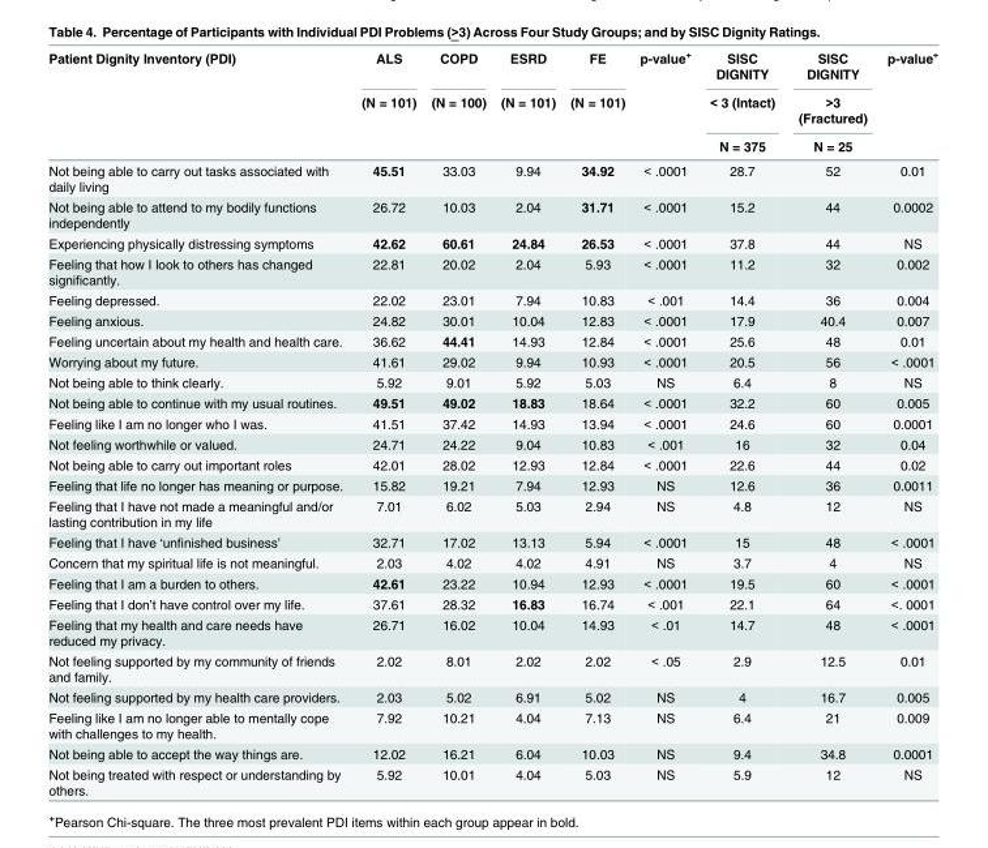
<table><thead><tr><td rowspan="3">Patient Dignity Inventory (PDI)</td><td rowspan="3">ALS (N = 101)</td><td rowspan="3">COPD (N = 100)</td><td rowspan="3">ESRD (N = 101)</td><td rowspan="3">FE (N = 101)</td><td rowspan="3">p-value<sup>+</sup></td><td rowspan="3">SISC DIGNITY &lt; 3 (Intact) N = 375</td><td rowspan="3">SISC DIGNITY &gt;3 (Fractured) N = 25</td><td rowspan="3">p-value<sup>+</sup></td></tr><tr></tr><tr></tr></thead><tbody><tr><td>Not being able to carry out tasks associated with daily living</td><td>45.51</td><td>33.03</td><td>9.94</td><td>34.92</td><td>&lt; .0001</td><td>28.7</td><td>52</td><td>0.01</td></tr><tr><td>Not being able to attend to my bodily functions independently</td><td>26.72</td><td>10.03</td><td>2.04</td><td>31.71</td><td>&lt; .0001</td><td>15.2</td><td>44</td><td>0.0002</td></tr><tr><td>Experiencing physically distressing symptoms</td><td>42.62</td><td>60.61</td><td>24.84</td><td>26.53</td><td>&lt; .0001</td><td>37.8</td><td>44</td><td>NS</td></tr><tr><td>Feeling that how I look to others has changed significantly.</td><td>22.81</td><td>20.02</td><td>2.04</td><td>5.93</td><td>&lt; .0001</td><td>11.2</td><td>32</td><td>0.002</td></tr><tr><td>Feeling depressed.</td><td>22.02</td><td>23.01</td><td>7.94</td><td>10.83</td><td>&lt; .001</td><td>14.4</td><td>36</td><td>0.004</td></tr><tr><td>Feeling anxious.</td><td>24.82</td><td>30.01</td><td>10.04</td><td>12.83</td><td>&lt; .0001</td><td>17.9</td><td>40.4</td><td>0.007</td></tr><tr><td>Feeling uncertain about my health and health care.</td><td>36.62</td><td>44.41</td><td>14.93</td><td>12.84</td><td>&lt; .0001</td><td>25.6</td><td>48</td><td>0.01</td></tr><tr><td>Worrying about my future.</td><td>41.61</td><td>29.02</td><td>9.94</td><td>10.93</td><td>&lt; .0001</td><td>20.5</td><td>56</td><td>&lt; .0001</td></tr><tr><td>Not being able to think clearly.</td><td>5.92</td><td>9.01</td><td>5.92</td><td>5.03</td><td>NS</td><td>6.4</td><td>8</td><td>NS</td></tr><tr><td>Not being able to continue with my usual routines.</td><td>49.51</td><td>49.02</td><td>18.83</td><td>18.64</td><td>&lt; .0001</td><td>32.2</td><td>60</td><td>0.005</td></tr><tr><td>Feeling like I am no longer who I was.</td><td>41.51</td><td>37.42</td><td>14.93</td><td>13.94</td><td>&lt; .0001</td><td>24.6</td><td>60</td><td>0.0001</td></tr><tr><td>Not feeling worthwhile or valued.</td><td>24.71</td><td>24.22</td><td>9.04</td><td>10.83</td><td>&lt; .001</td><td>16</td><td>32</td><td>0.04</td></tr><tr><td>Not being able to carry out important roles</td><td>42.01</td><td>28.02</td><td>12.93</td><td>12.84</td><td>&lt; .0001</td><td>22.6</td><td>44</td><td>0.02</td></tr><tr><td>Feeling that life no longer has meaning or purpose.</td><td>15.82</td><td>19.21</td><td>7.94</td><td>12.93</td><td>NS</td><td>12.6</td><td>36</td><td>0.0011</td></tr><tr><td>Feeling that I have not made a meaningful and/or lasting contribution in my life</td><td>7.01</td><td>6.02</td><td>5.03</td><td>2.94</td><td>NS</td><td>4.8</td><td>12</td><td>NS</td></tr><tr><td>Feeling that I have ‘unfinished business’</td><td>32.71</td><td>17.02</td><td>13.13</td><td>5.94</td><td>&lt; .0001</td><td>15</td><td>48</td><td>&lt; .0001</td></tr><tr><td>Concern that my spiritual life is not meaningful.</td><td>2.03</td><td>4.02</td><td>4.02</td><td>4.91</td><td>NS</td><td>3.7</td><td>4</td><td>NS</td></tr><tr><td>Feeling that I am a burden to others.</td><td>42.61</td><td>23.22</td><td>10.94</td><td>12.93</td><td>&lt; .0001</td><td>19.5</td><td>60</td><td>&lt; .0001</td></tr><tr><td>Feeling that I don’t have control over my life.</td><td>37.61</td><td>28.32</td><td>16.83</td><td>16.74</td><td>&lt; .001</td><td>22.1</td><td>64</td><td>&lt;. 0001</td></tr><tr><td>Feeling that my health and care needs have reduced my privacy.</td><td>26.71</td><td>16.02</td><td>10.04</td><td>14.93</td><td>&lt; .01</td><td>14.7</td><td>48</td><td>&lt; .0001</td></tr><tr><td>Not feeling supported by my community of friends and family.</td><td>2.02</td><td>8.01</td><td>2.02</td><td>2.02</td><td>&lt; .05</td><td>2.9</td><td>12.5</td><td>0.01</td></tr><tr><td>Not feeling supported by my health care providers.</td><td>2.03</td><td>5.02</td><td>6.91</td><td>5.02</td><td>NS</td><td>4</td><td>16.7</td><td>0.005</td></tr><tr><td>Feeling like I am no longer able to mentally cope with challenges to my health.</td><td>7.92</td><td>10.21</td><td>4.04</td><td>7.13</td><td>NS</td><td>6.4</td><td>21</td><td>0.009</td></tr><tr><td>Not being able to accept the way things are.</td><td>12.02</td><td>16.21</td><td>6.04</td><td>10.03</td><td>NS</td><td>9.4</td><td>34.8</td><td>0.0001</td></tr><tr><td>Not being treated with respect or understanding by others.</td><td>5.92</td><td>10.01</td><td>4.04</td><td>5.03</td><td>NS</td><td>5.9</td><td>12</td><td>NS</td></tr></tbody></table>